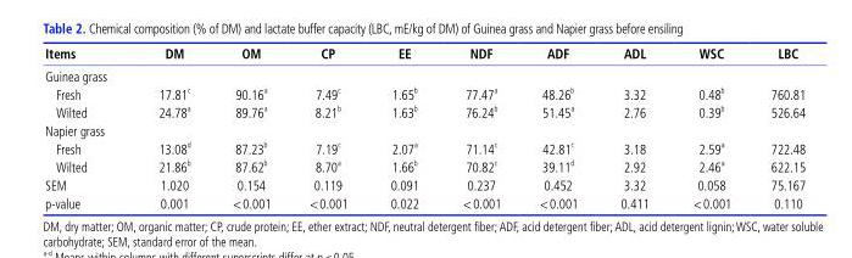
<table><thead><tr><td>Items</td><td>DM</td><td>OM</td><td>CP</td><td>EE</td><td>NDF</td><td>ADF</td><td>ADL</td><td>WSC</td><td>LBC</td></tr></thead><tbody><tr><td colspan="10">Guinea grass</td></tr><tr><td>Fresh</td><td>17.81 <sup>c</sup></td><td>90.16 <sup>a</sup></td><td>7.49 <sup>c</sup></td><td>1.65 <sup>b</sup></td><td>77.47 <sup>a</sup></td><td>48.26 <sup>b</sup></td><td>3.32</td><td>0.48 <sup>b</sup></td><td>760.81</td></tr><tr><td>Wilted</td><td>24.78 <sup>a</sup></td><td>89.76 <sup>a</sup></td><td>8.21 <sup>b</sup></td><td>1.63 <sup>b</sup></td><td>76.24 <sup>b</sup></td><td>51.45 <sup>a</sup></td><td>2.76</td><td>0.39 <sup>b</sup></td><td>526.64</td></tr><tr><td colspan="10">Napier grass</td></tr><tr><td>Fresh</td><td>13.08 <sup>d</sup></td><td>87.23 <sup>b</sup></td><td>7.19 <sup>c</sup></td><td>2.07 <sup>a</sup></td><td>71.14 <sup>c</sup></td><td>42.81 <sup>c</sup></td><td>3.18</td><td>2.59 <sup>a</sup></td><td>722.48</td></tr><tr><td>Wilted</td><td>21.86 <sup>b</sup></td><td>87.62 <sup>b</sup></td><td>8.70 <sup>a</sup></td><td>1.66 <sup>b</sup></td><td>70.82 <sup>c</sup></td><td>39.11 <sup>d</sup></td><td>2.92</td><td>2.46 <sup>a</sup></td><td>622.15</td></tr><tr><td>SEM</td><td>1.020</td><td>0.154</td><td>0.119</td><td>0.091</td><td>0.237</td><td>0.452</td><td>3.32</td><td>0.058</td><td>75.167</td></tr><tr><td>p-value</td><td>0.001</td><td>&lt;0.001</td><td>&lt;0.001</td><td>0.022</td><td>&lt;0.001</td><td>&lt;0.001</td><td>0.411</td><td>&lt;0.001</td><td>0.110</td></tr></tbody></table>